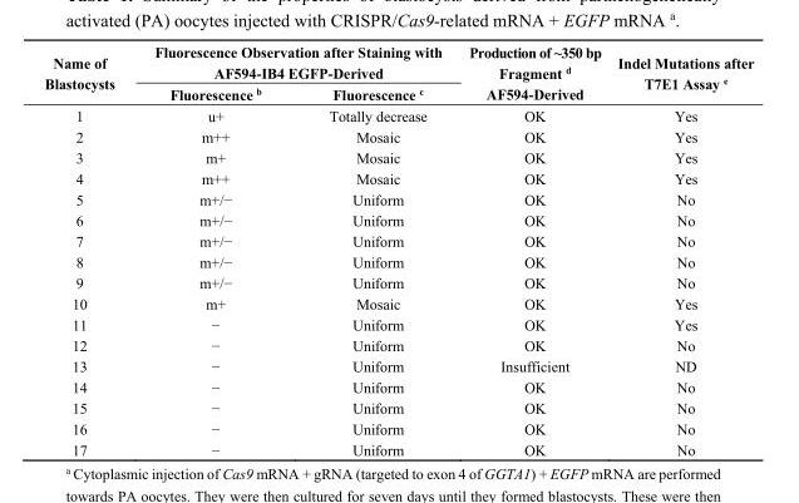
<table><thead><tr><td rowspan="2">Name of Blastocysts</td><td colspan="2">Fluorescence Observation after Staining with AF594-IB4 EGFP-Derived</td><td rowspan="2">Production of ~350 bp Fragment <sup>d</sup> AF594-Derived</td><td rowspan="2">Indel Mutations after T7E1 Assay <sup>e</sup></td></tr><tr><td>Fluorescence <sup>b</sup></td><td>Fluorescence <sup>c</sup></td></tr></thead><tbody><tr><td>1</td><td>u+</td><td>Totally decrease</td><td>OK</td><td>Yes</td></tr><tr><td>2</td><td>m++</td><td>Mosaic</td><td>OK</td><td>Yes</td></tr><tr><td>3</td><td>m+</td><td>Mosaic</td><td>OK</td><td>Yes</td></tr><tr><td>4</td><td>m++</td><td>Mosaic</td><td>OK</td><td>Yes</td></tr><tr><td>5</td><td>m+/−</td><td>Uniform</td><td>OK</td><td>No</td></tr><tr><td>6</td><td>m+/−</td><td>Uniform</td><td>OK</td><td>No</td></tr><tr><td>7</td><td>m+/−</td><td>Uniform</td><td>OK</td><td>No</td></tr><tr><td>8</td><td>m+/−</td><td>Uniform</td><td>OK</td><td>No</td></tr><tr><td>9</td><td>m+/−</td><td>Uniform</td><td>OK</td><td>No</td></tr><tr><td>10</td><td>m+</td><td>Mosaic</td><td>OK</td><td>Yes</td></tr><tr><td>11</td><td>−</td><td>Uniform</td><td>OK</td><td>Yes</td></tr><tr><td>12</td><td>−</td><td>Uniform</td><td>OK</td><td>No</td></tr><tr><td>13</td><td>−</td><td>Uniform</td><td>Insufficient</td><td>ND</td></tr><tr><td>14</td><td>−</td><td>Uniform</td><td>OK</td><td>No</td></tr><tr><td>15</td><td>−</td><td>Uniform</td><td>OK</td><td>No</td></tr><tr><td>16</td><td>−</td><td>Uniform</td><td>OK</td><td>No</td></tr><tr><td>17</td><td>−</td><td>Uniform</td><td>OK</td><td>No</td></tr></tbody></table>